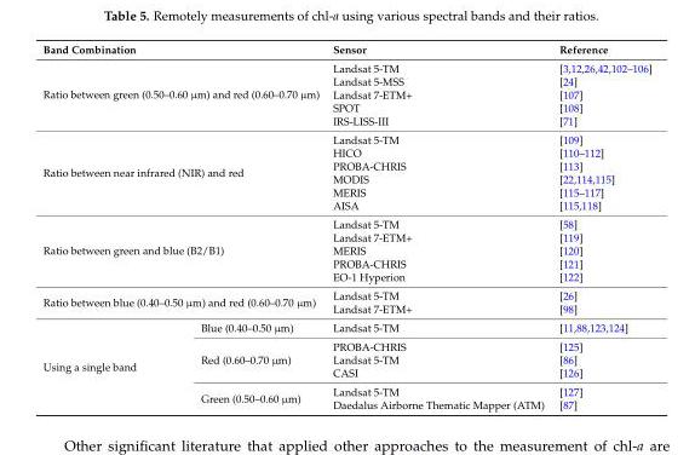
<table><thead><tr><td colspan="2">Band Combination</td><td>Sensor</td><td>Reference</td></tr></thead><tbody><tr><td rowspan="5" colspan="2">Ratio between green (0.50–0.60 µm) and red (0.60–0.70 µm)</td><td>Landsat 5-TM</td><td>[3,12,26,42,102–106]</td></tr><tr><td>Landsat 5-MSS</td><td>[24]</td></tr><tr><td>Landsat 7-ETM+</td><td>[107]</td></tr><tr><td>SPOT</td><td>[108]</td></tr><tr><td>IRS-LISS-III</td><td>[71]</td></tr><tr><td rowspan="6" colspan="2">Ratio between near infrared (NIR) and red</td><td>Landsat 5-TM</td><td>[109]</td></tr><tr><td>HICO</td><td>[110–112]</td></tr><tr><td>PROBA-CHRIS</td><td>[113]</td></tr><tr><td>MODIS</td><td>[22,114,115]</td></tr><tr><td>MERIS</td><td>[115–117]</td></tr><tr><td>AISA</td><td>[115,118]</td></tr><tr><td rowspan="5" colspan="2">Ratio between green and blue (B2/B1)</td><td>Landsat 5-TM</td><td>[58]</td></tr><tr><td>Landsat 7-ETM+</td><td>[119]</td></tr><tr><td>MERIS</td><td>[120]</td></tr><tr><td>PROBA-CHRIS</td><td>[121]</td></tr><tr><td>EO-1 Hyperion</td><td>[122]</td></tr><tr><td rowspan="2" colspan="2">Ratio between blue (0.40–0.50 µm) and red (0.60–0.70 µm)</td><td>Landsat 5-TM</td><td>[26]</td></tr><tr><td>Landsat 7-ETM+</td><td>[98]</td></tr><tr><td rowspan="6">Using a single band</td><td>Blue (0.40–0.50 µm)</td><td>Landsat 5-TM</td><td>[11,88,123,124]</td></tr><tr><td rowspan="3">Red (0.60–0.70 µm)</td><td>PROBA-CHRIS</td><td>[125]</td></tr><tr><td>Landsat 5-TM</td><td>[86]</td></tr><tr><td>CASI</td><td>[126]</td></tr><tr><td rowspan="2">Green (0.50–0.60 µm)</td><td>Landsat 5-TM</td><td>[127]</td></tr><tr><td>Daedalus Airborne Thematic Mapper (ATM)</td><td>[87]</td></tr></tbody></table>